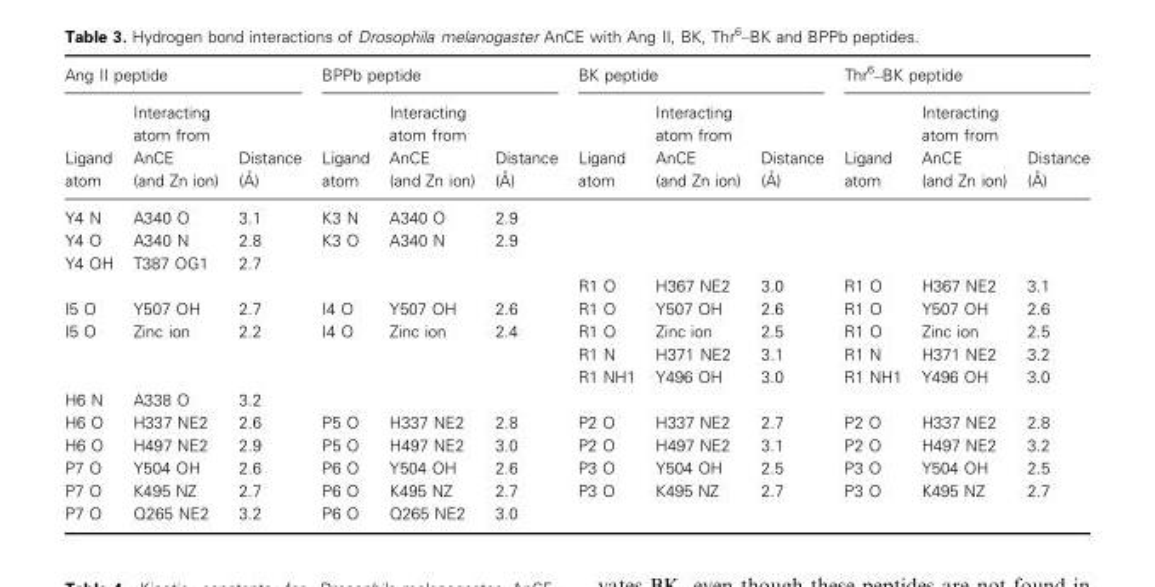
<table><thead><tr><td colspan="3">Ang II peptide</td><td colspan="3">BPPb peptide</td><td colspan="3">BK peptide</td><td colspan="3">Thr<sup>6</sup>–BK peptide</td></tr><tr><td>Ligand atom</td><td>Interacting atom from AnCE (and Zn ion)</td><td>Distance (A˚ )</td><td>Ligand atom</td><td>Interacting atom from AnCE (and Zn ion)</td><td>Distance (A˚ )</td><td>Ligand atom</td><td>Interacting atom from AnCE (and Zn ion)</td><td>Distance (A˚ )</td><td>Ligand atom</td><td>Interacting atom from AnCE (and Zn ion)</td><td>Distance (A˚ )</td></tr></thead><tbody><tr><td>Y4 N</td><td>A340 O</td><td>3.1</td><td>K3 N</td><td>A340 O</td><td>2.9</td><td></td><td></td><td></td><td></td><td></td><td></td></tr><tr><td>Y4 O</td><td>A340 N</td><td>2.8</td><td>K3 O</td><td>A340 N</td><td>2.9</td><td></td><td></td><td></td><td></td><td></td><td></td></tr><tr><td rowspan="2">Y4 OH</td><td>T387 OG1</td><td>2.7</td><td></td><td></td><td></td><td></td><td></td><td></td><td></td><td></td><td></td></tr><tr><td></td><td></td><td></td><td></td><td></td><td>R1 O</td><td>H367 NE2</td><td>3.0</td><td>R1 O</td><td>H367 NE2</td><td>3.1</td></tr><tr><td>I5 O</td><td>Y507 OH</td><td>2.7</td><td>I4 O</td><td>Y507 OH</td><td>2.6</td><td>R1 O</td><td>Y507 OH</td><td>2.6</td><td>R1 O</td><td>Y507 OH</td><td>2.6</td></tr><tr><td rowspan="3">I5 O</td><td>Zinc ion</td><td>2.2</td><td>I4 O</td><td>Zinc ion</td><td>2.4</td><td>R1 O</td><td>Zinc ion</td><td>2.5</td><td>R1 O</td><td>Zinc ion</td><td>2.5</td></tr><tr><td></td><td></td><td></td><td></td><td></td><td>R1 N</td><td>H371 NE2</td><td>3.1</td><td>R1 N</td><td>H371 NE2</td><td>3.2</td></tr><tr><td></td><td></td><td></td><td></td><td></td><td>R1 NH1</td><td>Y496 OH</td><td>3.0</td><td>R1 NH1</td><td>Y496 OH</td><td>3.0</td></tr><tr><td>H6 N</td><td>A338 O</td><td>3.2</td><td></td><td></td><td></td><td></td><td></td><td></td><td></td><td></td><td></td></tr><tr><td>H6 O</td><td>H337 NE2</td><td>2.6</td><td>P5 O</td><td>H337 NE2</td><td>2.8</td><td>P2 O</td><td>H337 NE2</td><td>2.7</td><td>P2 O</td><td>H337 NE2</td><td>2.8</td></tr><tr><td>H6 O</td><td>H497 NE2</td><td>2.9</td><td>P5 O</td><td>H497 NE2</td><td>3.0</td><td>P2 O</td><td>H497 NE2</td><td>3.1</td><td>P2 O</td><td>H497 NE2</td><td>3.2</td></tr><tr><td>P7 O</td><td>Y504 OH</td><td>2.6</td><td>P6 O</td><td>Y504 OH</td><td>2.6</td><td>P3 O</td><td>Y504 OH</td><td>2.5</td><td>P3 O</td><td>Y504 OH</td><td>2.5</td></tr><tr><td>P7 O</td><td>K495 NZ</td><td>2.7</td><td>P6 O</td><td>K495 NZ</td><td>2.7</td><td>P3 O</td><td>K495 NZ</td><td>2.7</td><td>P3 O</td><td>K495 NZ</td><td>2.7</td></tr><tr><td>P7 O</td><td>Q265 NE2</td><td>3.2</td><td>P6 O</td><td>Q265 NE2</td><td>3.0</td><td></td><td></td><td></td><td></td><td></td><td></td></tr></tbody></table>